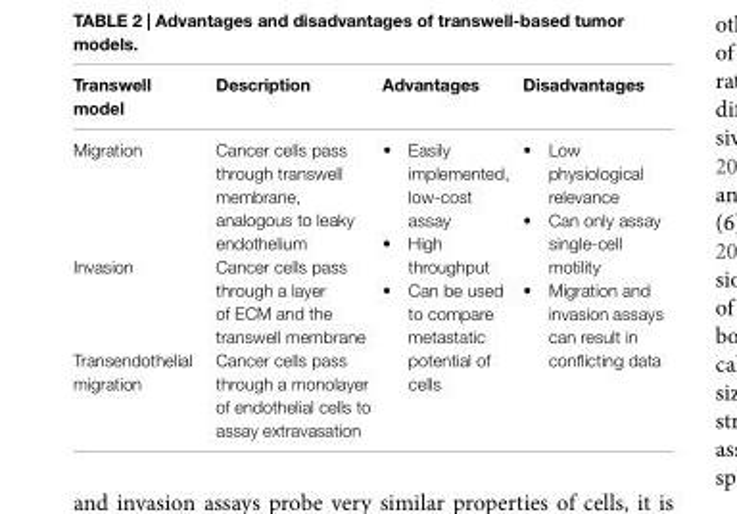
<table><thead><tr><td>Transwell model</td><td>Description</td><td>Advantages</td><td>Disadvantages</td></tr></thead><tbody><tr><td>Migration</td><td>Cancer cells pass through transwell membrane, analogous to leaky endothelium</td><td rowspan="3">• Easily implemented, low-cost assay • High throughput • Can be used to compare metastatic potential of cells</td><td rowspan="3">• Low physiological relevance • Can only assay single-cell motility • Migration and invasion assays can result in conflicting data</td></tr><tr><td>Invasion</td><td>Cancer cells pass through a layer of ECM and the transwell membrane</td></tr><tr><td>Transendothelial migration</td><td>Cancer cells pass through a monolayer of endothelial cells to assay extravasation</td></tr></tbody></table>